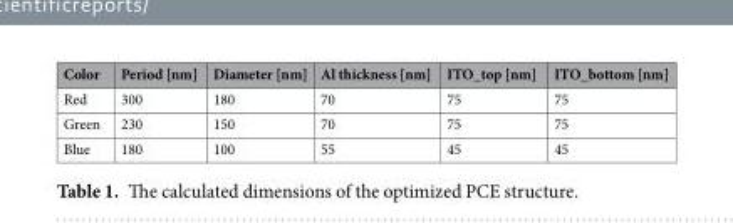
<table><thead><tr><td>Color</td><td>Period [nm]</td><td>Diameter [nm]</td><td>Al thickness [nm]</td><td>ITO_top [nm]</td><td>ITO_bottom [nm]</td></tr></thead><tbody><tr><td>Red</td><td>300</td><td>180</td><td>70</td><td>75</td><td>75</td></tr><tr><td>Green</td><td>230</td><td>150</td><td>70</td><td>75</td><td>75</td></tr><tr><td>Blue</td><td>180</td><td>100</td><td>55</td><td>45</td><td>45</td></tr></tbody></table>